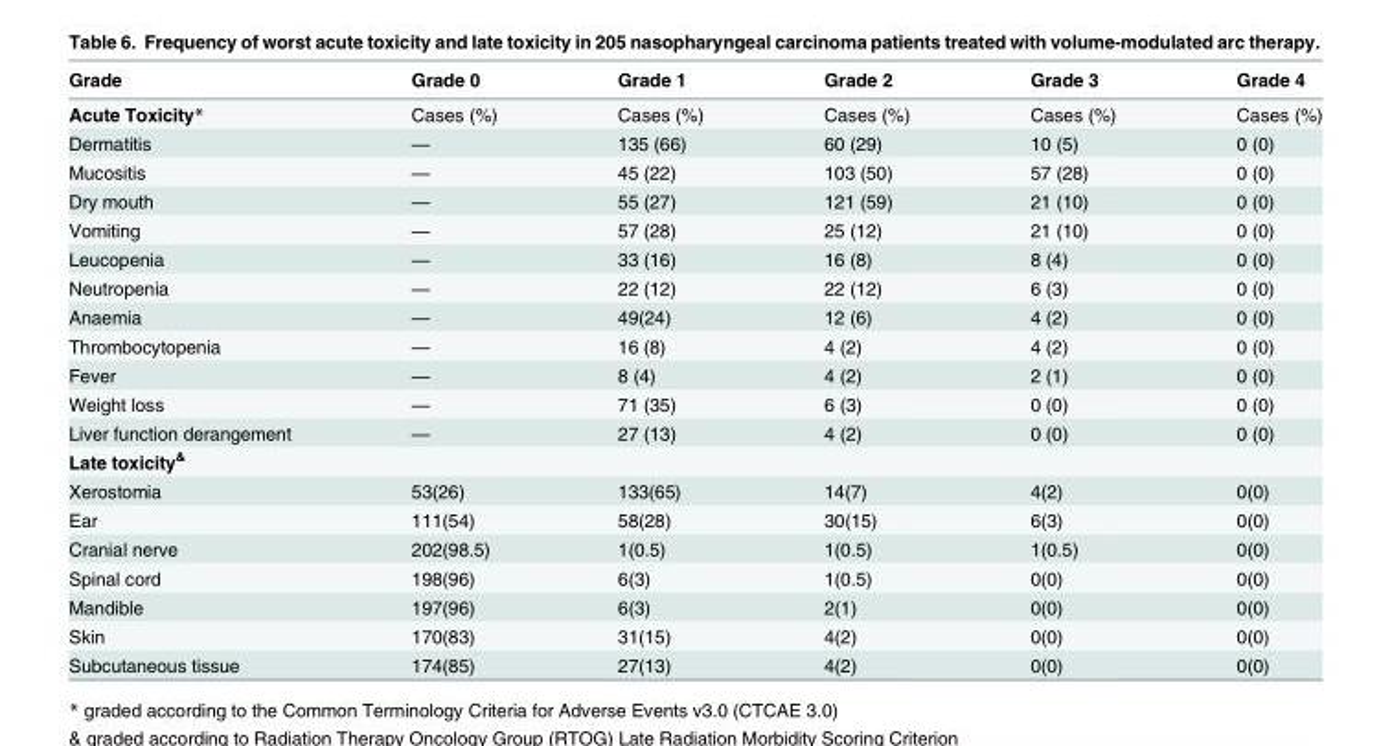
<table><thead><tr><td>Grade</td><td>Grade 0</td><td>Grade 1</td><td>Grade 2</td><td>Grade 3</td><td>Grade 4</td></tr></thead><tbody><tr><td>Acute Toxicity*</td><td>Cases (%)</td><td>Cases (%)</td><td>Cases (%)</td><td>Cases (%)</td><td>Cases (%)</td></tr><tr><td>Dermatitis</td><td>—</td><td>135 (66)</td><td>60 (29)</td><td>10 (5)</td><td>0 (0)</td></tr><tr><td>Mucositis</td><td>—</td><td>45 (22)</td><td>103 (50)</td><td>57 (28)</td><td>0 (0)</td></tr><tr><td>Dry mouth</td><td>—</td><td>55 (27)</td><td>121 (59)</td><td>21 (10)</td><td>0 (0)</td></tr><tr><td>Vomiting</td><td>—</td><td>57 (28)</td><td>25 (12)</td><td>21 (10)</td><td>0 (0)</td></tr><tr><td>Leucopenia</td><td>—</td><td>33 (16)</td><td>16 (8)</td><td>8 (4)</td><td>0 (0)</td></tr><tr><td>Neutropenia</td><td>—</td><td>22 (12)</td><td>22 (12)</td><td>6 (3)</td><td>0 (0)</td></tr><tr><td>Anaemia</td><td>—</td><td>49(24)</td><td>12 (6)</td><td>4 (2)</td><td>0 (0)</td></tr><tr><td>Thrombocytopenia</td><td>—</td><td>16 (8)</td><td>4 (2)</td><td>4 (2)</td><td>0 (0)</td></tr><tr><td>Fever</td><td>—</td><td>8 (4)</td><td>4 (2)</td><td>2 (1)</td><td>0 (0)</td></tr><tr><td>Weight loss</td><td>—</td><td>71 (35)</td><td>6 (3)</td><td>0 (0)</td><td>0 (0)</td></tr><tr><td>Liver function derangement</td><td>—</td><td>27 (13)</td><td>4 (2)</td><td>0 (0)</td><td>0 (0)</td></tr><tr><td colspan="6">Late toxicity<sup>&amp;</sup></td></tr><tr><td>Xerostomia</td><td>53(26)</td><td>133(65)</td><td>14(7)</td><td>4(2)</td><td>0(0)</td></tr><tr><td>Ear</td><td>111(54)</td><td>58(28)</td><td>30(15)</td><td>6(3)</td><td>0(0)</td></tr><tr><td>Cranial nerve</td><td>202(98.5)</td><td>1(0.5)</td><td>1(0.5)</td><td>1(0.5)</td><td>0(0)</td></tr><tr><td>Spinal cord</td><td>198(96)</td><td>6(3)</td><td>1(0.5)</td><td>0(0)</td><td>0(0)</td></tr><tr><td>Mandible</td><td>197(96)</td><td>6(3)</td><td>2(1)</td><td>0(0)</td><td>0(0)</td></tr><tr><td>Skin</td><td>170(83)</td><td>31(15)</td><td>4(2)</td><td>0(0)</td><td>0(0)</td></tr><tr><td>Subcutaneous tissue</td><td>174(85)</td><td>27(13)</td><td>4(2)</td><td>0(0)</td><td>0(0)</td></tr></tbody></table>